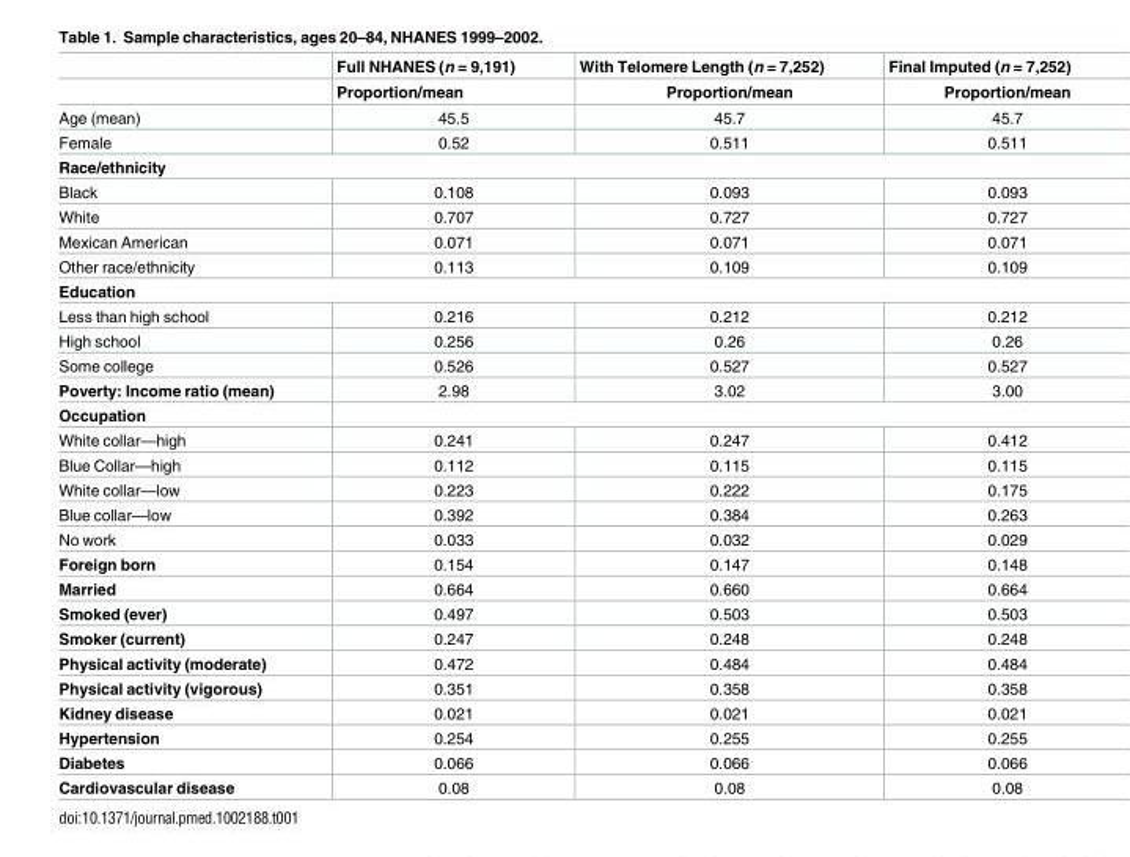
<table><thead><tr><td rowspan="2"></td><td rowspan="2">Full NHANES (n = 9,191) Proportion/mean</td><td rowspan="2">With Telomere Length (n = 7,252) Proportion/mean</td><td rowspan="2">Final Imputed (n = 7,252) Proportion/mean</td></tr><tr></tr></thead><tbody><tr><td>Age (mean)</td><td>45.5</td><td>45.7</td><td>45.7</td></tr><tr><td>Female</td><td>0.52</td><td>0.511</td><td>0.511</td></tr><tr><td colspan="4">Race/ethnicity</td></tr><tr><td>Black</td><td>0.108</td><td>0.093</td><td>0.093</td></tr><tr><td>White</td><td>0.707</td><td>0.727</td><td>0.727</td></tr><tr><td>Mexican American</td><td>0.071</td><td>0.071</td><td>0.071</td></tr><tr><td>Other race/ethnicity</td><td>0.113</td><td>0.109</td><td>0.109</td></tr><tr><td colspan="4">Education</td></tr><tr><td>Less than high school</td><td>0.216</td><td>0.212</td><td>0.212</td></tr><tr><td>High school</td><td>0.256</td><td>0.26</td><td>0.26</td></tr><tr><td>Some college</td><td>0.526</td><td>0.527</td><td>0.527</td></tr><tr><td>Poverty: Income ratio (mean)</td><td>2.98</td><td>3.02</td><td>3.00</td></tr><tr><td colspan="4">Occupation</td></tr><tr><td>White collar—high</td><td>0.241</td><td>0.247</td><td>0.412</td></tr><tr><td>Blue Collar—high</td><td>0.112</td><td>0.115</td><td>0.115</td></tr><tr><td>White collar—low</td><td>0.223</td><td>0.222</td><td>0.175</td></tr><tr><td>Blue collar—low</td><td>0.392</td><td>0.384</td><td>0.263</td></tr><tr><td>No work</td><td>0.033</td><td>0.032</td><td>0.029</td></tr><tr><td>Foreign born</td><td>0.154</td><td>0.147</td><td>0.148</td></tr><tr><td>Married</td><td>0.664</td><td>0.660</td><td>0.664</td></tr><tr><td>Smoked (ever)</td><td>0.497</td><td>0.503</td><td>0.503</td></tr><tr><td>Smoker (current)</td><td>0.247</td><td>0.248</td><td>0.248</td></tr><tr><td>Physical activity (moderate)</td><td>0.472</td><td>0.484</td><td>0.484</td></tr><tr><td>Physical activity (vigorous)</td><td>0.351</td><td>0.358</td><td>0.358</td></tr><tr><td>Kidney disease</td><td>0.021</td><td>0.021</td><td>0.021</td></tr><tr><td>Hypertension</td><td>0.254</td><td>0.255</td><td>0.255</td></tr><tr><td>Diabetes</td><td>0.066</td><td>0.066</td><td>0.066</td></tr><tr><td>Cardiovascular disease</td><td>0.08</td><td>0.08</td><td>0.08</td></tr></tbody></table>